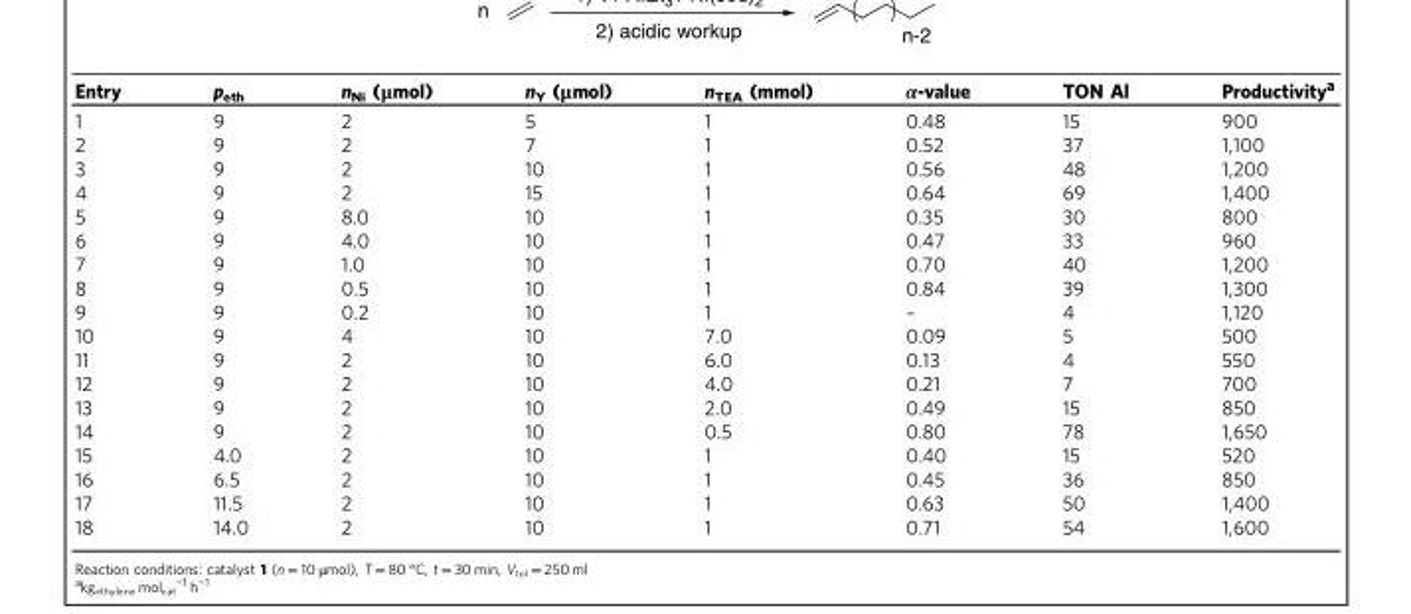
<table><thead><tr><td>Entry</td><td>p<sub>eth</sub></td><td>n<sub>Ni</sub> (μmol)</td><td>n<sub>Y</sub> (μmol)</td><td>n<sub>TEA</sub> (mmol)</td><td>α-value</td><td>TON Al</td><td>Productivity<sup>a</sup></td></tr></thead><tbody><tr><td>1</td><td>9</td><td>2</td><td>5</td><td>1</td><td>0.48</td><td>15</td><td>900</td></tr><tr><td>2</td><td>9</td><td>2</td><td>7</td><td>1</td><td>0.52</td><td>37</td><td>1,100</td></tr><tr><td>3</td><td>9</td><td>2</td><td>10</td><td>1</td><td>0.56</td><td>48</td><td>1,200</td></tr><tr><td>4</td><td>9</td><td>2</td><td>15</td><td>1</td><td>0.64</td><td>69</td><td>1,400</td></tr><tr><td>5</td><td>9</td><td>8.0</td><td>10</td><td>1</td><td>0.35</td><td>30</td><td>800</td></tr><tr><td>6</td><td>9</td><td>4.0</td><td>10</td><td>1</td><td>0.47</td><td>33</td><td>960</td></tr><tr><td>7</td><td>9</td><td>1.0</td><td>10</td><td>1</td><td>0.70</td><td>40</td><td>1,200</td></tr><tr><td>8</td><td>9</td><td>0.5</td><td>10</td><td>1</td><td>0.84</td><td>39</td><td>1,300</td></tr><tr><td>9</td><td>9</td><td>0.2</td><td>10</td><td>1</td><td>–</td><td>4</td><td>1,120</td></tr><tr><td>10</td><td>9</td><td>4</td><td>10</td><td>7.0</td><td>0.09</td><td>5</td><td>500</td></tr><tr><td>11</td><td>9</td><td>2</td><td>10</td><td>6.0</td><td>0.13</td><td>4</td><td>550</td></tr><tr><td>12</td><td>9</td><td>2</td><td>10</td><td>4.0</td><td>0.21</td><td>7</td><td>700</td></tr><tr><td>13</td><td>9</td><td>2</td><td>10</td><td>2.0</td><td>0.49</td><td>15</td><td>850</td></tr><tr><td>14</td><td>9</td><td>2</td><td>10</td><td>0.5</td><td>0.80</td><td>78</td><td>1,650</td></tr><tr><td>15</td><td>4.0</td><td>2</td><td>10</td><td>1</td><td>0.40</td><td>15</td><td>520</td></tr><tr><td>16</td><td>6.5</td><td>2</td><td>10</td><td>1</td><td>0.45</td><td>36</td><td>850</td></tr><tr><td>17</td><td>11.5</td><td>2</td><td>10</td><td>1</td><td>0.63</td><td>50</td><td>1,400</td></tr><tr><td>18</td><td>14.0</td><td>2</td><td>10</td><td>1</td><td>0.71</td><td>54</td><td>1,600</td></tr></tbody></table>